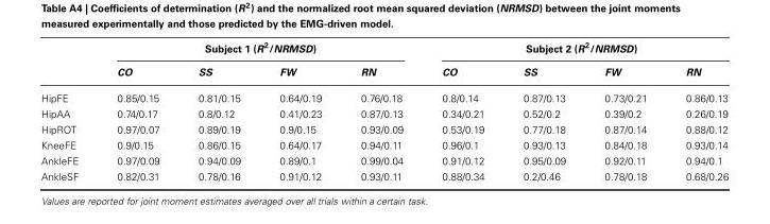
<table><thead><tr><td rowspan="2"></td><td colspan="4">Subject 1 (R<sup>2</sup>/NRMSD)</td><td colspan="4">Subject 2 (R<sup>2</sup>/NRMSD)</td></tr><tr><td>CO</td><td>SS</td><td>FW</td><td>RN</td><td>CO</td><td>SS</td><td>FW</td><td>RN</td></tr></thead><tbody><tr><td>HipFE</td><td>0.85/0.15</td><td>0.81/0.15</td><td>0.64/0.19</td><td>0.76/0.18</td><td>0.8/0.14</td><td>0.87/0.13</td><td>0.73/0.21</td><td>0.86/0.13</td></tr><tr><td>HipAA</td><td>0.74/0.17</td><td>0.8/0.12</td><td>0.41/0.23</td><td>0.87/0.13</td><td>0.34/0.21</td><td>0.52/0.2</td><td>0.39/0.2</td><td>0.26/0.19</td></tr><tr><td>HipROT</td><td>0.97/0.07</td><td>0.89/0.19</td><td>0.9/0.15</td><td>0.93/0.09</td><td>0.53/0.19</td><td>0.77/0.18</td><td>0.87/0.14</td><td>0.88/0.12</td></tr><tr><td>KneeFE</td><td>0.9/0.15</td><td>0.86/0.15</td><td>0.64/0.17</td><td>0.94/0.11</td><td>0.96/0.1</td><td>0.93/0.13</td><td>0.84/0.18</td><td>0.93/0.14</td></tr><tr><td>AnkleFE</td><td>0.97/0.09</td><td>0.94/0.09</td><td>0.89/0.1</td><td>0.99/0.04</td><td>0.91/0.12</td><td>0.95/0.09</td><td>0.92/0.11</td><td>0.94/0.1</td></tr><tr><td>AnkleSF</td><td>0.82/0.31</td><td>0.78/0.16</td><td>0.91/0.12</td><td>0.93/0.11</td><td>0.88/0.34</td><td>0.2/0.46</td><td>0.78/0.18</td><td>0.68/0.26</td></tr></tbody></table>